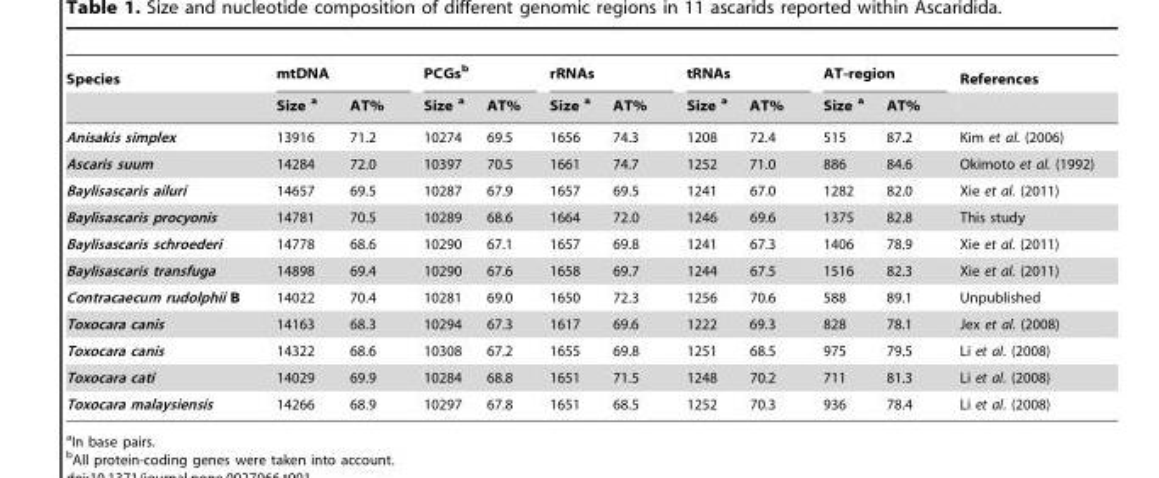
<table><thead><tr><td rowspan="2">Species</td><td colspan="2">mtDNA</td><td colspan="2">PCGs<sup>b</sup></td><td colspan="2">rRNAs</td><td colspan="2">tRNAs</td><td colspan="2">AT-region</td><td rowspan="2">References</td></tr><tr><td>Size a</td><td>AT%</td><td>Size a</td><td>AT%</td><td>Size a</td><td>AT%</td><td>Size a</td><td>AT%</td><td>Size a</td><td>AT%</td></tr></thead><tbody><tr><td>Anisakis simplex</td><td>13916</td><td>71.2</td><td>10274</td><td>69.5</td><td>1656</td><td>74.3</td><td>1208</td><td>72.4</td><td>515</td><td>87.2</td><td>Kim et al. (2006)</td></tr><tr><td>Ascaris suum</td><td>14284</td><td>72.0</td><td>10397</td><td>70.5</td><td>1661</td><td>74.7</td><td>1252</td><td>71.0</td><td>886</td><td>84.6</td><td>Okimoto et al. (1992)</td></tr><tr><td>Baylisascaris ailuri</td><td>14657</td><td>69.5</td><td>10287</td><td>67.9</td><td>1657</td><td>69.5</td><td>1241</td><td>67.0</td><td>1282</td><td>82.0</td><td>Xie et al. (2011)</td></tr><tr><td>Baylisascaris procyonis</td><td>14781</td><td>70.5</td><td>10289</td><td>68.6</td><td>1664</td><td>72.0</td><td>1246</td><td>69.6</td><td>1375</td><td>82.8</td><td>This study</td></tr><tr><td>Baylisascaris schroederi</td><td>14778</td><td>68.6</td><td>10290</td><td>67.1</td><td>1657</td><td>69.8</td><td>1241</td><td>67.3</td><td>1406</td><td>78.9</td><td>Xie et al. (2011)</td></tr><tr><td>Baylisascaris transfuga</td><td>14898</td><td>69.4</td><td>10290</td><td>67.6</td><td>1658</td><td>69.7</td><td>1244</td><td>67.5</td><td>1516</td><td>82.3</td><td>Xie et al. (2011)</td></tr><tr><td>Contracaecum rudolphii B</td><td>14022</td><td>70.4</td><td>10281</td><td>69.0</td><td>1650</td><td>72.3</td><td>1256</td><td>70.6</td><td>588</td><td>89.1</td><td>Unpublished</td></tr><tr><td>Toxocara canis</td><td>14163</td><td>68.3</td><td>10294</td><td>67.3</td><td>1617</td><td>69.6</td><td>1222</td><td>69.3</td><td>828</td><td>78.1</td><td>Jex et al. (2008)</td></tr><tr><td>Toxocara canis</td><td>14322</td><td>68.6</td><td>10308</td><td>67.2</td><td>1655</td><td>69.8</td><td>1251</td><td>68.5</td><td>975</td><td>79.5</td><td>Li et al. (2008)</td></tr><tr><td>Toxocara cati</td><td>14029</td><td>69.9</td><td>10284</td><td>68.8</td><td>1651</td><td>71.5</td><td>1248</td><td>70.2</td><td>711</td><td>81.3</td><td>Li et al. (2008)</td></tr><tr><td>Toxocara malaysiensis</td><td>14266</td><td>68.9</td><td>10297</td><td>67.8</td><td>1651</td><td>68.5</td><td>1252</td><td>70.3</td><td>936</td><td>78.4</td><td>Li et al. (2008)</td></tr></tbody></table>